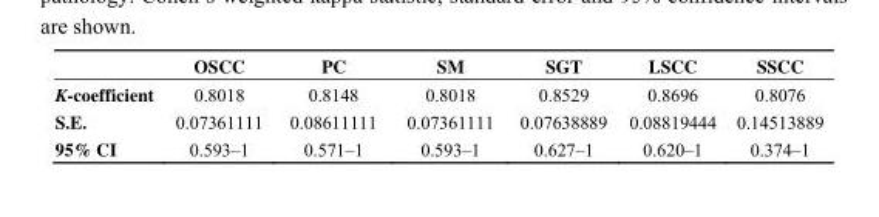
<table><thead><tr><td></td><td>OSCC</td><td>PC</td><td>SM</td><td>SGT</td><td>LSCC</td><td>SSCC</td></tr></thead><tbody><tr><td>K-coefficient</td><td>0.8018</td><td>0.8148</td><td>0.8018</td><td>0.8529</td><td>0.8696</td><td>0.8076</td></tr><tr><td>S.E.</td><td>0.07361111</td><td>0.08611111</td><td>0.07361111</td><td>0.07638889</td><td>0.08819444</td><td>0.14513889</td></tr><tr><td>95% CI</td><td>0.593–1</td><td>0.571–1</td><td>0.593–1</td><td>0.627–1</td><td>0.620–1</td><td>0.374–1</td></tr></tbody></table>